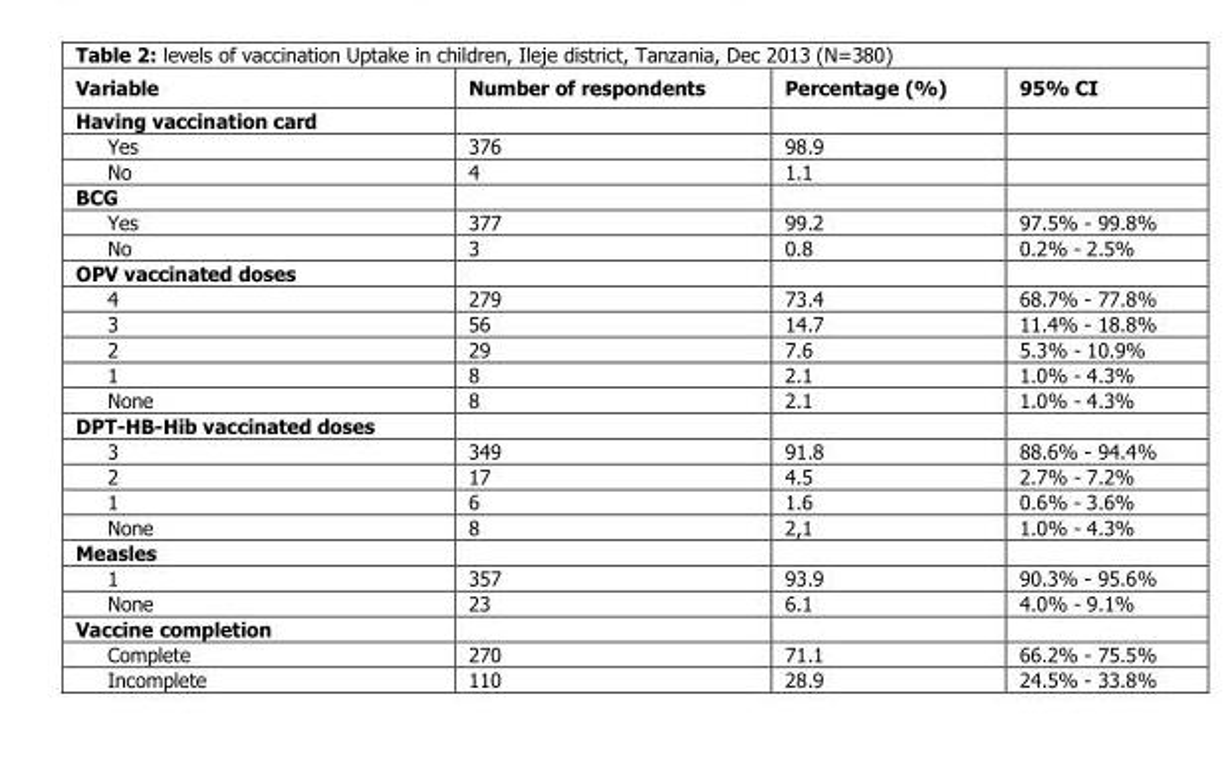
<table><thead><tr><td>Variable</td><td>Number of respondents</td><td>Percentage (%)</td><td>95% CI</td></tr></thead><tbody><tr><td colspan="4">Having vaccination card</td></tr><tr><td>Yes</td><td>376</td><td>98.9</td><td></td></tr><tr><td>No</td><td>4</td><td>1.1</td><td></td></tr><tr><td colspan="4">BCG</td></tr><tr><td>Yes</td><td>377</td><td>99.2</td><td>97.5% - 99.8%</td></tr><tr><td>No</td><td>3</td><td>0.8</td><td>0.2% - 2.5%</td></tr><tr><td colspan="4">OPV vaccinated doses</td></tr><tr><td>4</td><td>279</td><td>73.4</td><td>68.7% - 77.8%</td></tr><tr><td>3</td><td>56</td><td>14.7</td><td>11.4% - 18.8%</td></tr><tr><td>2</td><td>29</td><td>7.6</td><td>5.3% - 10.9%</td></tr><tr><td>1</td><td>8</td><td>2.1</td><td>1.0% - 4.3%</td></tr><tr><td>None</td><td>8</td><td>2.1</td><td>1.0% - 4.3%</td></tr><tr><td colspan="4">DPT-HB-Hib vaccinated doses</td></tr><tr><td>3</td><td>349</td><td>91.8</td><td>88.6% - 94.4%</td></tr><tr><td>2</td><td>17</td><td>4.5</td><td>2.7% - 7.2%</td></tr><tr><td>1</td><td>6</td><td>1.6</td><td>0.6% - 3.6%</td></tr><tr><td>None</td><td>8</td><td>2,1</td><td>1.0% - 4.3%</td></tr><tr><td colspan="4">Measles</td></tr><tr><td>1</td><td>357</td><td>93.9</td><td>90.3% - 95.6%</td></tr><tr><td>None</td><td>23</td><td>6.1</td><td>4.0% - 9.1%</td></tr><tr><td colspan="4">Vaccine completion</td></tr><tr><td>Complete</td><td>270</td><td>71.1</td><td>66.2% - 75.5%</td></tr><tr><td>Incomplete</td><td>110</td><td>28.9</td><td>24.5% - 33.8%</td></tr></tbody></table>